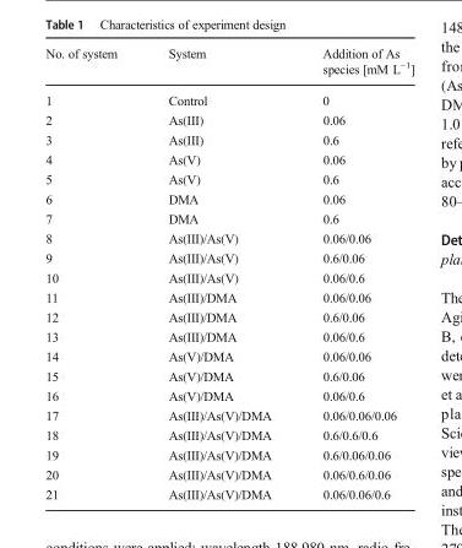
<table><thead><tr><td>No. of system</td><td>System</td><td>Addition of As species [mM L<sup>−1</sup>]</td></tr></thead><tbody><tr><td>1</td><td>Control</td><td>0</td></tr><tr><td>2</td><td>As(III)</td><td>0.06</td></tr><tr><td>3</td><td>As(III)</td><td>0.6</td></tr><tr><td>4</td><td>As(V)</td><td>0.06</td></tr><tr><td>5</td><td>As(V)</td><td>0.6</td></tr><tr><td>6</td><td>DMA</td><td>0.06</td></tr><tr><td>7</td><td>DMA</td><td>0.6</td></tr><tr><td>8</td><td>As(III)/As(V)</td><td>0.06/0.06</td></tr><tr><td>9</td><td>As(III)/As(V)</td><td>0.6/0.06</td></tr><tr><td>10</td><td>As(III)/As(V)</td><td>0.06/0.6</td></tr><tr><td>11</td><td>As(III)/DMA</td><td>0.06/0.06</td></tr><tr><td>12</td><td>As(III)/DMA</td><td>0.6/0.06</td></tr><tr><td>13</td><td>As(III)/DMA</td><td>0.06/0.6</td></tr><tr><td>14</td><td>As(V)/DMA</td><td>0.06/0.06</td></tr><tr><td>15</td><td>As(V)/DMA</td><td>0.6/0.06</td></tr><tr><td>16</td><td>As(V)/DMA</td><td>0.06/0.6</td></tr><tr><td>17</td><td>As(III)/As(V)/DMA</td><td>0.06/0.06/0.06</td></tr><tr><td>18</td><td>As(III)/As(V)/DMA</td><td>0.6/0.6/0.6</td></tr><tr><td>19</td><td>As(III)/As(V)/DMA</td><td>0.6/0.06/0.06</td></tr><tr><td>20</td><td>As(III)/As(V)/DMA</td><td>0.06/0.6/0.06</td></tr><tr><td>21</td><td>As(III)/As(V)/DMA</td><td>0.06/0.06/0.6</td></tr></tbody></table>